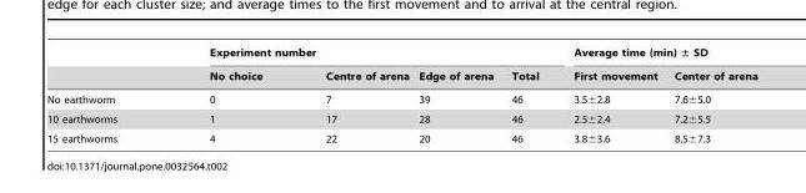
<table><thead><tr><td rowspan="2"></td><td colspan="4">Experiment number</td><td colspan="2">Average time (min) ± SD</td></tr><tr><td>No choice</td><td>Centre of arena</td><td>Edge of arena</td><td>Total</td><td>First movement</td><td>Center of arena</td></tr></thead><tbody><tr><td>No earthworm</td><td>0</td><td>7</td><td>39</td><td>46</td><td>3.5±2.8</td><td>7.6±5.0</td></tr><tr><td>10 earthworms</td><td>1</td><td>17</td><td>28</td><td>46</td><td>2.5±2.4</td><td>7.2±5.5</td></tr><tr><td>15 earthworms</td><td>4</td><td>22</td><td>20</td><td>46</td><td>3.8±3.6</td><td>8.5±7.3</td></tr></tbody></table>